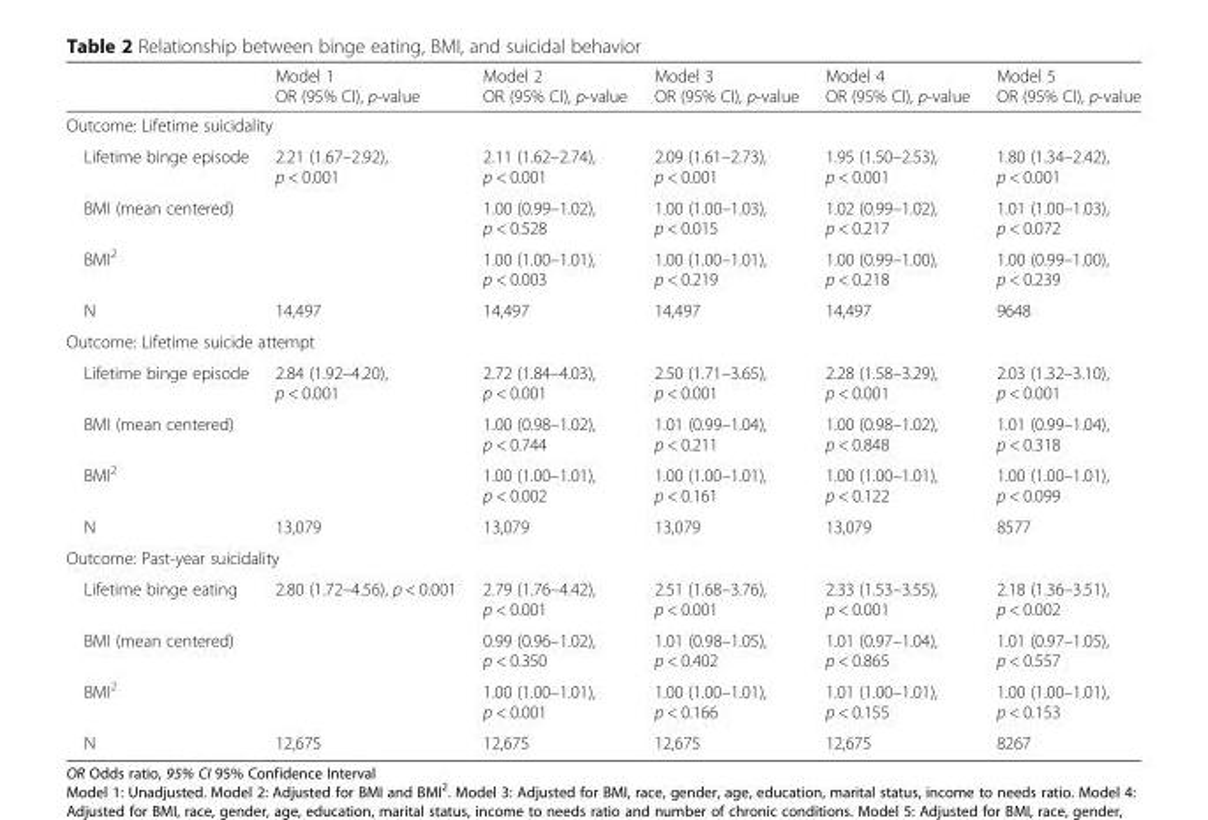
<table><thead><tr><td></td><td>Model 1 OR (95% CI), p-value</td><td>Model 2 OR (95% CI), p-value</td><td>Model 3 OR (95% CI), p-value</td><td>Model 4 OR (95% CI), p-value</td><td>Model 5 OR (95% CI), p-value</td></tr></thead><tbody><tr><td colspan="6">Outcome: Lifetime suicidality</td></tr><tr><td>Lifetime binge episode</td><td>2.21 (1.67–2.92), p &lt; 0.001</td><td>2.11 (1.62–2.74), p &lt; 0.001</td><td>2.09 (1.61–2.73), p &lt; 0.001</td><td>1.95 (1.50–2.53), p &lt; 0.001</td><td>1.80 (1.34–2.42), p &lt; 0.001</td></tr><tr><td>BMI (mean centered)</td><td></td><td>1.00 (0.99–1.02), p &lt; 0.528</td><td>1.00 (1.00–1.03), p &lt; 0.015</td><td>1.02 (0.99–1.02), p &lt; 0.217</td><td>1.01 (1.00–1.03), p &lt; 0.072</td></tr><tr><td>BMI<sup>2</sup></td><td></td><td>1.00 (1.00–1.01), p &lt; 0.003</td><td>1.00 (1.00–1.01), p &lt; 0.219</td><td>1.00 (0.99–1.00), p &lt; 0.218</td><td>1.00 (0.99–1.00), p &lt; 0.239</td></tr><tr><td>N</td><td>14,497</td><td>14,497</td><td>14,497</td><td>14,497</td><td>9648</td></tr><tr><td colspan="6">Outcome: Lifetime suicide attempt</td></tr><tr><td>Lifetime binge episode</td><td>2.84 (1.92–4.20), p &lt; 0.001</td><td>2.72 (1.84–4.03), p &lt; 0.001</td><td>2.50 (1.71–3.65), p &lt; 0.001</td><td>2.28 (1.58–3.29), p &lt; 0.001</td><td>2.03 (1.32–3.10), p &lt; 0.001</td></tr><tr><td>BMI (mean centered)</td><td></td><td>1.00 (0.98–1.02), p &lt; 0.744</td><td>1.01 (0.99–1.04), p &lt; 0.211</td><td>1.00 (0.98–1.02), p &lt; 0.848</td><td>1.01 (0.99–1.04), p &lt; 0.318</td></tr><tr><td>BMI<sup>2</sup></td><td></td><td>1.00 (1.00–1.01), p &lt; 0.002</td><td>1.00 (1.00–1.01), p &lt; 0.161</td><td>1.00 (1.00–1.01), p &lt; 0.122</td><td>1.00 (1.00–1.01), p &lt; 0.099</td></tr><tr><td>N</td><td>13,079</td><td>13,079</td><td>13,079</td><td>13,079</td><td>8577</td></tr><tr><td colspan="6">Outcome: Past-year suicidality</td></tr><tr><td>Lifetime binge eating</td><td>2.80 (1.72–4.56), p &lt; 0.001</td><td>2.79 (1.76–4.42), p &lt; 0.001</td><td>2.51 (1.68–3.76), p &lt; 0.001</td><td>2.33 (1.53–3.55), p &lt; 0.001</td><td>2.18 (1.36–3.51), p &lt; 0.002</td></tr><tr><td>BMI (mean centered)</td><td></td><td>0.99 (0.96–1.02), p &lt; 0.350</td><td>1.01 (0.98–1.05), p &lt; 0.402</td><td>1.01 (0.97–1.04), p &lt; 0.865</td><td>1.01 (0.97–1.05), p &lt; 0.557</td></tr><tr><td>BMI<sup>2</sup></td><td></td><td>1.00 (1.00–1.01), p &lt; 0.001</td><td>1.00 (1.00–1.01), p &lt; 0.166</td><td>1.01 (1.00–1.01), p &lt; 0.155</td><td>1.00 (1.00–1.01), p &lt; 0.153</td></tr><tr><td>N</td><td>12,675</td><td>12,675</td><td>12,675</td><td>12,675</td><td>8267</td></tr></tbody></table>